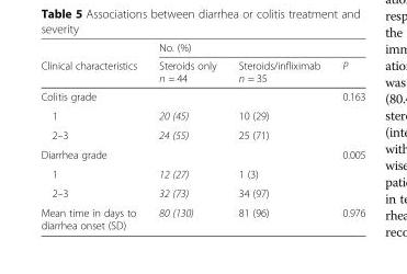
<table><thead><tr><td rowspan="2">Clinical characteristics</td><td colspan="3">No. (%)</td></tr><tr><td>Steroids only n = 44</td><td>Steroids/infliximab n = 35</td><td>P</td></tr></thead><tbody><tr><td>Colitis grade</td><td></td><td></td><td>0.163</td></tr><tr><td>1</td><td>20 (45)</td><td>10 (29)</td><td></td></tr><tr><td>2–3</td><td>24 (55)</td><td>25 (71)</td><td></td></tr><tr><td>Diarrhea grade</td><td></td><td></td><td>0.005</td></tr><tr><td>1</td><td>12 (27)</td><td>1 (3)</td><td></td></tr><tr><td>2–3</td><td>32 (73)</td><td>34 (97)</td><td></td></tr><tr><td>Mean time in days to diarrhea onset (SD)</td><td>80 (130)</td><td>81 (96)</td><td>0.976</td></tr></tbody></table>